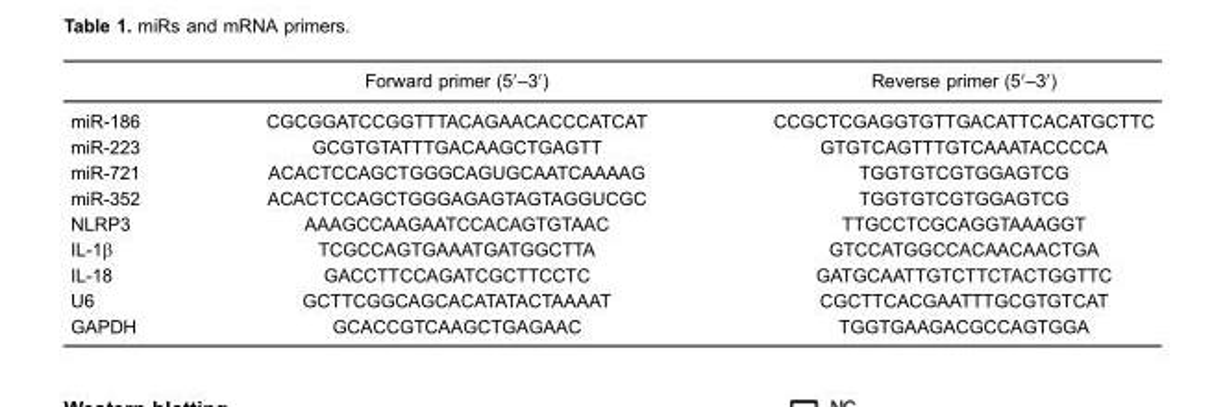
<table><thead><tr><td></td><td>Forward primer (5′–3′)</td><td>Reverse primer (5′–3′)</td></tr></thead><tbody><tr><td>miR-186</td><td>CGCGGATCCGGTTTACAGAACACCCATCAT</td><td>CCGCTCGAGGTGTTGACATTCACATGCTTC</td></tr><tr><td>miR-223</td><td>GCGTGTATTTGACAAGCTGAGTT</td><td>GTGTCAGTTTGTCAAATACCCCA</td></tr><tr><td>miR-721</td><td>ACACTCCAGCTGGGCAGUGCAATCAAAAG</td><td>TGGTGTCGTGGAGTCG</td></tr><tr><td>miR-352</td><td>ACACTCCAGCTGGGAGAGTAGTAGGUCGC</td><td>TGGTGTCGTGGAGTCG</td></tr><tr><td>NLRP3</td><td>AAAGCCAAGAATCCACAGTGTAAC</td><td>TTGCCTCGCAGGTAAAGGT</td></tr><tr><td>IL-1β</td><td>TCGCCAGTGAAATGATGGCTTA</td><td>GTCCATGGCCACAACAACTGA</td></tr><tr><td>IL-18</td><td>GACCTTCCAGATCGCTTCCTC</td><td>GATGCAATTGTCTTCTACTGGTTC</td></tr><tr><td>U6</td><td>GCTTCGGCAGCACATATACTAAAAT</td><td>CGCTTCACGAATTTGCGTGTCAT</td></tr><tr><td>GAPDH</td><td>GCACCGTCAAGCTGAGAAC</td><td>TGGTGAAGACGCCAGTGGA</td></tr></tbody></table>